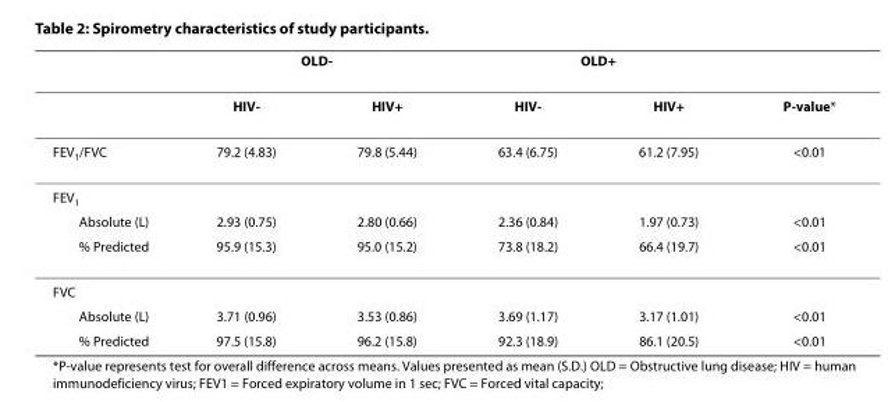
<table><thead><tr><td rowspan="2"></td><td colspan="2">OLD-</td><td colspan="2">OLD+</td><td rowspan="2">P-value*</td></tr><tr><td>HIV-</td><td>HIV+</td><td>HIV-</td><td>HIV+</td></tr></thead><tbody><tr><td>FEV<sub>1</sub>/FVC</td><td>79.2 (4.83)</td><td>79.8 (5.44)</td><td>63.4 (6.75)</td><td>61.2 (7.95)</td><td>&lt;0.01</td></tr><tr><td colspan="6">FEV<sub>1</sub></td></tr><tr><td>Absolute (L)</td><td>2.93 (0.75)</td><td>2.80 (0.66)</td><td>2.36 (0.84)</td><td>1.97 (0.73)</td><td>&lt;0.01</td></tr><tr><td>% Predicted</td><td>95.9 (15.3)</td><td>95.0 (15.2)</td><td>73.8 (18.2)</td><td>66.4 (19.7)</td><td>&lt;0.01</td></tr><tr><td colspan="6">FVC</td></tr><tr><td>Absolute (L)</td><td>3.71 (0.96)</td><td>3.53 (0.86)</td><td>3.69 (1.17)</td><td>3.17 (1.01)</td><td>&lt;0.01</td></tr><tr><td>% Predicted</td><td>97.5 (15.8)</td><td>96.2 (15.8)</td><td>92.3 (18.9)</td><td>86.1 (20.5)</td><td>&lt;0.01</td></tr></tbody></table>